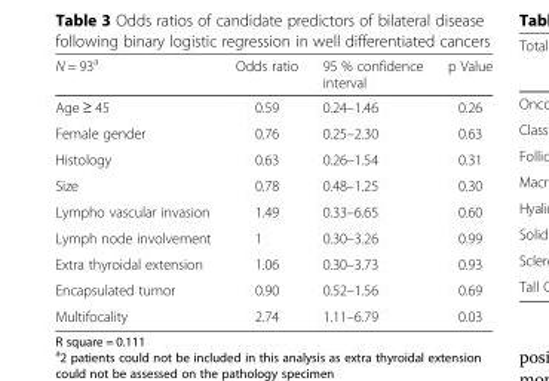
<table><thead><tr><td>N = 93<sup>a</sup></td><td>Odds ratio</td><td>95 % confidence interval</td><td>p Value</td></tr></thead><tbody><tr><td>Age ≥ 45</td><td>0.59</td><td>0.24–1.46</td><td>0.26</td></tr><tr><td>Female gender</td><td>0.76</td><td>0.25–2.30</td><td>0.63</td></tr><tr><td>Histology</td><td>0.63</td><td>0.26–1.54</td><td>0.31</td></tr><tr><td>Size</td><td>0.78</td><td>0.48–1.25</td><td>0.30</td></tr><tr><td>Lympho vascular invasion</td><td>1.49</td><td>0.33–6.65</td><td>0.60</td></tr><tr><td>Lymph node involvement</td><td>1</td><td>0.30–3.26</td><td>0.99</td></tr><tr><td>Extra thyroidal extension</td><td>1.06</td><td>0.30–3.73</td><td>0.93</td></tr><tr><td>Encapsulated tumor</td><td>0.90</td><td>0.52–1.56</td><td>0.69</td></tr><tr><td>Multifocality</td><td>2.74</td><td>1.11–6.79</td><td>0.03</td></tr></tbody></table>